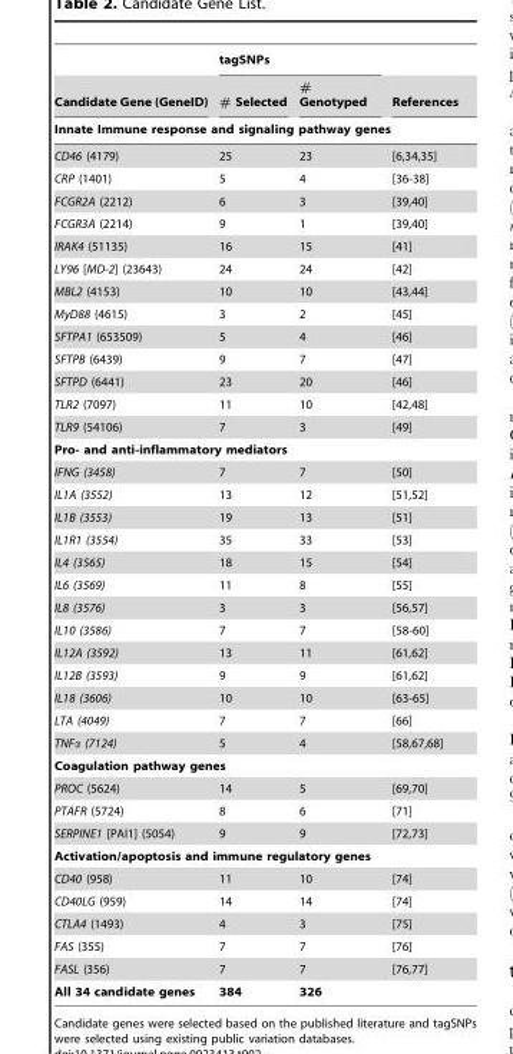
<table><thead><tr><td rowspan="2">Candidate Gene (GeneID)</td><td colspan="2">tagSNPs</td><td rowspan="3">References</td></tr><tr><td># Selected</td><td># Genotyped</td></tr><tr><td colspan="3">Innate Immune response and signaling pathway genes</td></tr></thead><tbody><tr><td>CD46 (4179)</td><td>25</td><td>23</td><td>[6,34,35]</td></tr><tr><td>CRP (1401)</td><td>5</td><td>4</td><td>[36-38]</td></tr><tr><td>FCGR2A (2212)</td><td>6</td><td>3</td><td>[39,40]</td></tr><tr><td>FCGR3A (2214)</td><td>9</td><td>1</td><td>[39,40]</td></tr><tr><td>IRAK4 (51135)</td><td>16</td><td>15</td><td>[41]</td></tr><tr><td>LY96 [MD-2] (23643)</td><td>24</td><td>24</td><td>[42]</td></tr><tr><td>MBL2 (4153)</td><td>10</td><td>10</td><td>[43,44]</td></tr><tr><td>MyD88 (4615)</td><td>3</td><td>2</td><td>[45]</td></tr><tr><td>SFTPA1 (653509)</td><td>5</td><td>4</td><td>[46]</td></tr><tr><td>SFTPB (6439)</td><td>9</td><td>7</td><td>[47]</td></tr><tr><td>SFTPD (6441)</td><td>23</td><td>20</td><td>[46]</td></tr><tr><td>TLR2 (7097)</td><td>11</td><td>10</td><td>[42,48]</td></tr><tr><td>TLR9 (54106)</td><td>7</td><td>3</td><td>[49]</td></tr><tr><td colspan="4">Pro- and anti-inflammatory mediators</td></tr><tr><td>IFNG (3458)</td><td>7</td><td>7</td><td>[50]</td></tr><tr><td>IL1A (3552)</td><td>13</td><td>12</td><td>[51,52]</td></tr><tr><td>IL1B (3553)</td><td>19</td><td>13</td><td>[51]</td></tr><tr><td>IL1R1 (3554)</td><td>35</td><td>33</td><td>[53]</td></tr><tr><td>IL4 (3565)</td><td>18</td><td>15</td><td>[54]</td></tr><tr><td>IL6 (3569)</td><td>11</td><td>8</td><td>[55]</td></tr><tr><td>IL8 (3576)</td><td>3</td><td>3</td><td>[56,57]</td></tr><tr><td>IL10 (3586)</td><td>7</td><td>7</td><td>[58-60]</td></tr><tr><td>IL12A (3592)</td><td>13</td><td>11</td><td>[61,62]</td></tr><tr><td>IL12B (3593)</td><td>9</td><td>9</td><td>[61,62]</td></tr><tr><td>IL18 (3606)</td><td>10</td><td>10</td><td>[63-65]</td></tr><tr><td>LTA (4049)</td><td>7</td><td>7</td><td>[66]</td></tr><tr><td>TNFα (7124)</td><td>5</td><td>4</td><td>[58,67,68]</td></tr><tr><td colspan="4">Coagulation pathway genes</td></tr><tr><td>PROC (5624)</td><td>14</td><td>5</td><td>[69,70]</td></tr><tr><td>PTAFR (5724)</td><td>8</td><td>6</td><td>[71]</td></tr><tr><td>SERPINE1 [PAI1] (5054)</td><td>9</td><td>9</td><td>[72,73]</td></tr><tr><td colspan="4">Activation/apoptosis and immune regulatory genes</td></tr><tr><td>CD40 (958)</td><td>11</td><td>10</td><td>[74]</td></tr><tr><td>CD40LG (959)</td><td>14</td><td>14</td><td>[74]</td></tr><tr><td>CTLA4 (1493)</td><td>4</td><td>3</td><td>[75]</td></tr><tr><td>FAS (355)</td><td>7</td><td>7</td><td>[76]</td></tr><tr><td>FASL (356)</td><td>7</td><td>7</td><td>[76,77]</td></tr><tr><td>All 34 candidate genes</td><td>384</td><td>326</td><td></td></tr></tbody></table>